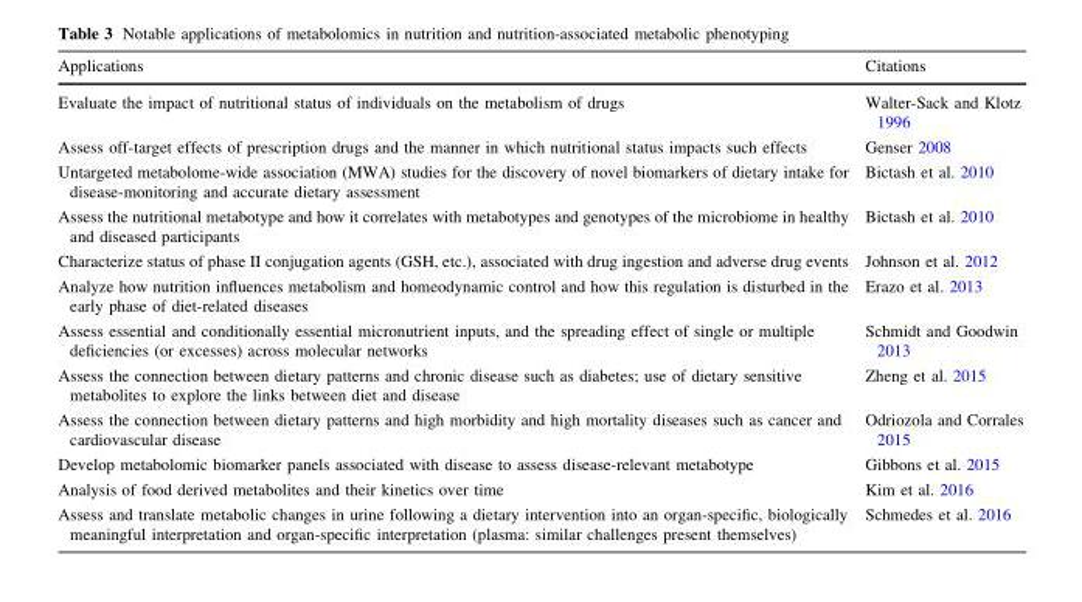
<table><thead><tr><td>Applications</td><td>Citations</td></tr></thead><tbody><tr><td>Evaluate the impact of nutritional status of individuals on the metabolism of drugs</td><td>Walter-Sack and Klotz 1996</td></tr><tr><td>Assess off-target effects of prescription drugs and the manner in which nutritional status impacts such effects</td><td>Genser 2008</td></tr><tr><td>Untargeted metabolome-wide association (MWA) studies for the discovery of novel biomarkers of dietary intake for disease-monitoring and accurate dietary assessment</td><td>Bictash et al. 2010</td></tr><tr><td>Assess the nutritional metabotype and how it correlates with metabotypes and genotypes of the microbiome in healthy and diseased participants</td><td>Bictash et al. 2010</td></tr><tr><td>Characterize status of phase II conjugation agents (GSH, etc.), associated with drug ingestion and adverse drug events</td><td>Johnson et al. 2012</td></tr><tr><td>Analyze how nutrition influences metabolism and homeodynamic control and how this regulation is disturbed in the early phase of diet-related diseases</td><td>Erazo et al. 2013</td></tr><tr><td>Assess essential and conditionally essential micronutrient inputs, and the spreading effect of single or multiple deficiencies (or excesses) across molecular networks</td><td>Schmidt and Goodwin 2013</td></tr><tr><td>Assess the connection between dietary patterns and chronic disease such as diabetes; use of dietary sensitive metabolites to explore the links between diet and disease</td><td>Zheng et al. 2015</td></tr><tr><td>Assess the connection between dietary patterns and high morbidity and high mortality diseases such as cancer and cardiovascular disease</td><td>Odriozola and Corrales 2015</td></tr><tr><td>Develop metabolomic biomarker panels associated with disease to assess disease-relevant metabotype</td><td>Gibbons et al. 2015</td></tr><tr><td>Analysis of food derived metabolites and their kinetics over time</td><td>Kim et al. 2016</td></tr><tr><td>Assess and translate metabolic changes in urine following a dietary intervention into an organ-specific, biologically meaningful interpretation and organ-specific interpretation (plasma: similar challenges present themselves)</td><td>Schmedes et al. 2016</td></tr></tbody></table>